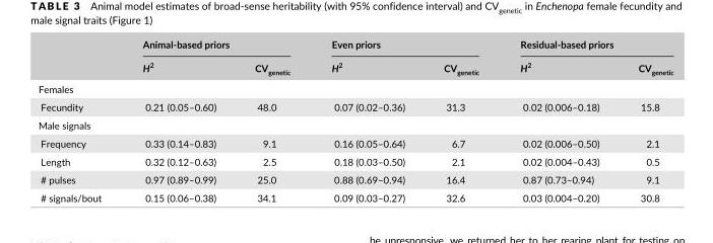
<table><thead><tr><td rowspan="2"></td><td colspan="2">Animal- based priors</td><td colspan="2">Even priors</td><td colspan="2">Residual- based priors</td></tr><tr><td>H<sup>2</sup></td><td>CV<sub>genetic</sub></td><td>H<sup>2</sup></td><td>CV<sub>genetic</sub></td><td>H<sup>2</sup></td><td>CV<sub>genetic</sub></td></tr></thead><tbody><tr><td colspan="7">Females</td></tr><tr><td>Fecundity</td><td>0.21 (0.05–0.60)</td><td>48.0</td><td>0.07 (0.02–0.36)</td><td>31.3</td><td>0.02 (0.006–0.18)</td><td>15.8</td></tr><tr><td colspan="7">Male signals</td></tr><tr><td>Frequency</td><td>0.33 (0.14–0.83)</td><td>9.1</td><td>0.16 (0.05–0.64)</td><td>6.7</td><td>0.02 (0.006–0.50)</td><td>2.1</td></tr><tr><td>Length</td><td>0.32 (0.12–0.63)</td><td>2.5</td><td>0.18 (0.03–0.50)</td><td>2.1</td><td>0.02 (0.004–0.43)</td><td>0.5</td></tr><tr><td># pulses</td><td>0.97 (0.89–0.99)</td><td>25.0</td><td>0.88 (0.69–0.94)</td><td>16.4</td><td>0.87 (0.73–0.94)</td><td>9.1</td></tr><tr><td># signals/bout</td><td>0.15 (0.06–0.38)</td><td>34.1</td><td>0.09 (0.03–0.27)</td><td>32.6</td><td>0.03 (0.004–0.20)</td><td>30.8</td></tr></tbody></table>